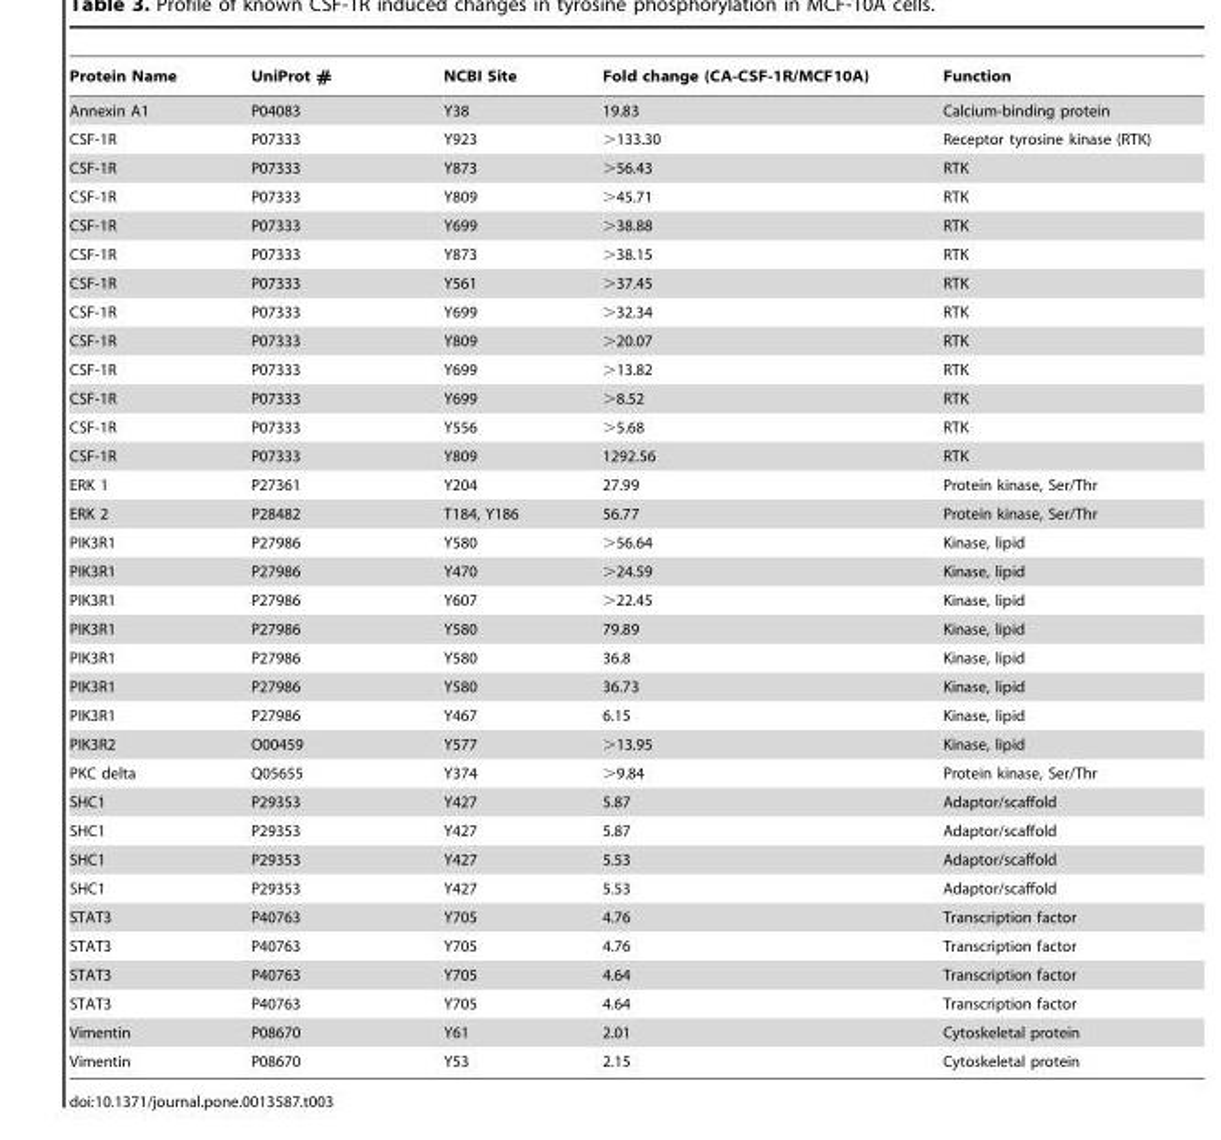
<table><thead><tr><td>Protein Name</td><td>UniProt #</td><td>NCBI Site</td><td>Fold change (CA-CSF-1R/MCF10A)</td><td>Function</td></tr></thead><tbody><tr><td>Annexin A1</td><td>P04083</td><td>Y38</td><td>19.83</td><td>Calcium-binding protein</td></tr><tr><td>CSF-1R</td><td>P07333</td><td>Y923</td><td>&gt;133.30</td><td>Receptor tyrosine kinase (RTK)</td></tr><tr><td>CSF-1R</td><td>P07333</td><td>Y873</td><td>&gt;56.43</td><td>RTK</td></tr><tr><td>CSF-1R</td><td>P07333</td><td>Y809</td><td>&gt;45.71</td><td>RTK</td></tr><tr><td>CSF-1R</td><td>P07333</td><td>Y699</td><td>&gt;38.88</td><td>RTK</td></tr><tr><td>CSF-1R</td><td>P07333</td><td>Y873</td><td>&gt;38.15</td><td>RTK</td></tr><tr><td>CSF-1R</td><td>P07333</td><td>Y561</td><td>&gt;37.45</td><td>RTK</td></tr><tr><td>CSF-1R</td><td>P07333</td><td>Y699</td><td>&gt;32.34</td><td>RTK</td></tr><tr><td>CSF-1R</td><td>P07333</td><td>Y809</td><td>&gt;20.07</td><td>RTK</td></tr><tr><td>CSF-1R</td><td>P07333</td><td>Y699</td><td>&gt;13.82</td><td>RTK</td></tr><tr><td>CSF-1R</td><td>P07333</td><td>Y699</td><td>&gt;8.52</td><td>RTK</td></tr><tr><td>CSF-1R</td><td>P07333</td><td>Y556</td><td>&gt;5.68</td><td>RTK</td></tr><tr><td>CSF-1R</td><td>P07333</td><td>Y809</td><td>1292.56</td><td>RTK</td></tr><tr><td>ERK 1</td><td>P27361</td><td>Y204</td><td>27.99</td><td>Protein kinase, Ser/Thr</td></tr><tr><td>ERK 2</td><td>P28482</td><td>T184, Y186</td><td>56.77</td><td>Protein kinase, Ser/Thr</td></tr><tr><td>PIK3R1</td><td>P27986</td><td>Y580</td><td>&gt;56.64</td><td>Kinase, lipid</td></tr><tr><td>PIK3R1</td><td>P27986</td><td>Y470</td><td>&gt;24.59</td><td>Kinase, lipid</td></tr><tr><td>PIK3R1</td><td>P27986</td><td>Y607</td><td>&gt;22.45</td><td>Kinase, lipid</td></tr><tr><td>PIK3R1</td><td>P27986</td><td>Y580</td><td>79.89</td><td>Kinase, lipid</td></tr><tr><td>PIK3R1</td><td>P27986</td><td>Y580</td><td>36.8</td><td>Kinase, lipid</td></tr><tr><td>PIK3R1</td><td>P27986</td><td>Y580</td><td>36.73</td><td>Kinase, lipid</td></tr><tr><td>PIK3R1</td><td>P27986</td><td>Y467</td><td>6.15</td><td>Kinase, lipid</td></tr><tr><td>PIK3R2</td><td>O00459</td><td>Y577</td><td>&gt;13.95</td><td>Kinase, lipid</td></tr><tr><td>PKC delta</td><td>Q05655</td><td>Y374</td><td>&gt;9.84</td><td>Protein kinase, Ser/Thr</td></tr><tr><td>SHC1</td><td>P29353</td><td>Y427</td><td>5.87</td><td>Adaptor/scaffold</td></tr><tr><td>SHC1</td><td>P29353</td><td>Y427</td><td>5.87</td><td>Adaptor/scaffold</td></tr><tr><td>SHC1</td><td>P29353</td><td>Y427</td><td>5.53</td><td>Adaptor/scaffold</td></tr><tr><td>SHC1</td><td>P29353</td><td>Y427</td><td>5.53</td><td>Adaptor/scaffold</td></tr><tr><td>STAT3</td><td>P40763</td><td>Y705</td><td>4.76</td><td>Transcription factor</td></tr><tr><td>STAT3</td><td>P40763</td><td>Y705</td><td>4.76</td><td>Transcription factor</td></tr><tr><td>STAT3</td><td>P40763</td><td>Y705</td><td>4.64</td><td>Transcription factor</td></tr><tr><td>STAT3</td><td>P40763</td><td>Y705</td><td>4.64</td><td>Transcription factor</td></tr><tr><td>Vimentin</td><td>P08670</td><td>Y61</td><td>2.01</td><td>Cytoskeletal protein</td></tr><tr><td>Vimentin</td><td>P08670</td><td>Y53</td><td>2.15</td><td>Cytoskeletal protein</td></tr></tbody></table>